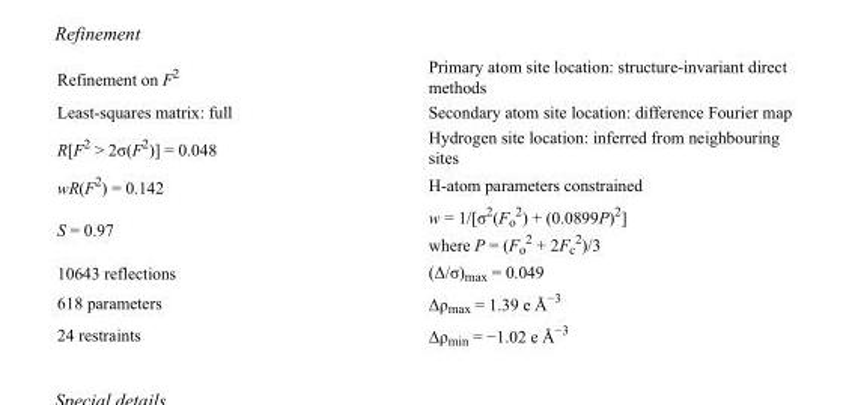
<table><tbody><tr><td>Refinement on F<sup>2</sup></td><td>Primary atom site location: structure-invariant direct methods</td></tr><tr><td>Least-squares matrix: full</td><td>Secondary atom site location: difference Fourier map</td></tr><tr><td>R[F<sup>2</sup> &gt; 2σ(F<sup>2</sup>)] = 0.048</td><td>Hydrogen site location: inferred from neighbouring sites</td></tr><tr><td>wR(F<sup>2</sup>) = 0.142</td><td>H-atom parameters constrained</td></tr><tr><td>S = 0.97</td><td>w = 1/[σ<sup>2</sup>(F<sub>o</sub> <sup>2</sup>) + (0.0899P)<sup>2</sup>] where P = (F<sub>o</sub> <sup>2</sup> + 2F<sub>c</sub> <sup>2</sup>)/3</td></tr><tr><td>10643 reflections</td><td>(Δ/σ)<sub>max</sub> = 0.049</td></tr><tr><td>618 parameters</td><td>Δρ<sub>max</sub> = 1.39 e Å<sup>−3</sup></td></tr><tr><td>24 restraints</td><td>Δρ<sub>min</sub> = −1.02 e Å<sup>−3</sup></td></tr></tbody></table>